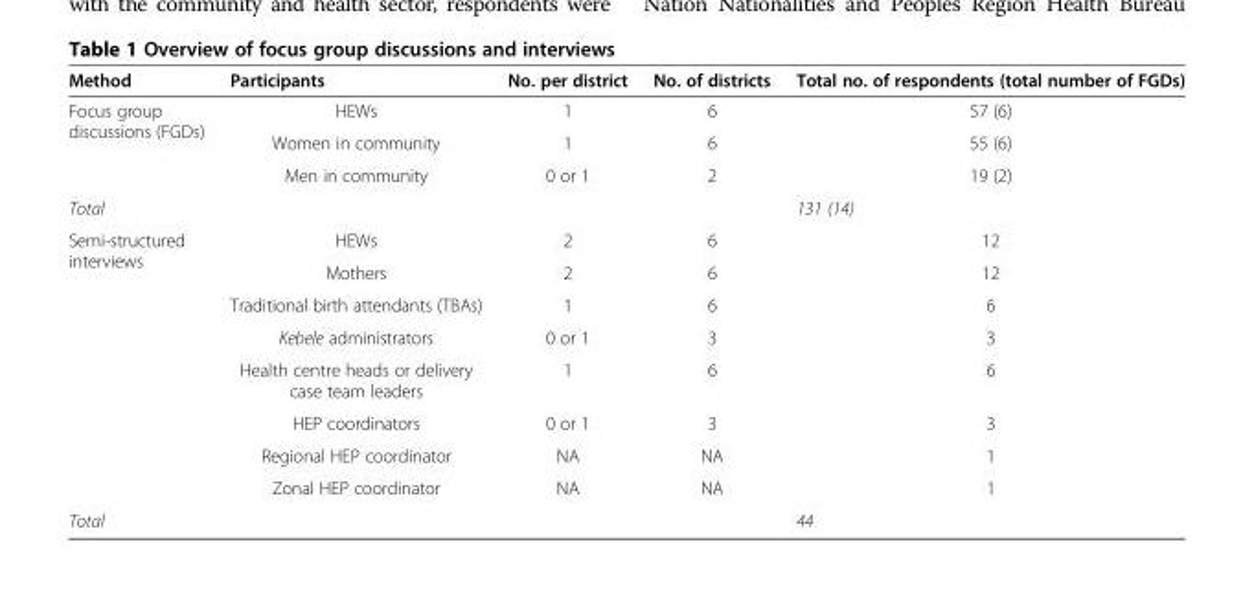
<table><thead><tr><td>Method</td><td>Participants</td><td>No. per district</td><td>No. of districts</td><td>Total no. of respondents (total number of FGDs)</td></tr></thead><tbody><tr><td rowspan="3">Focus group discussions (FGDs)</td><td>HEWs</td><td>1</td><td>6</td><td>57 (6)</td></tr><tr><td>Women in community</td><td>1</td><td>6</td><td>55 (6)</td></tr><tr><td>Men in community</td><td>0 or 1</td><td>2</td><td>19 (2)</td></tr><tr><td colspan="3">Total</td><td></td><td>131 (14)</td></tr><tr><td rowspan="8">Semi-structured interviews</td><td>HEWs</td><td>2</td><td>6</td><td>12</td></tr><tr><td>Mothers</td><td>2</td><td>6</td><td>12</td></tr><tr><td>Traditional birth attendants (TBAs)</td><td>1</td><td>6</td><td>6</td></tr><tr><td>Kebele administrators</td><td>0 or 1</td><td>3</td><td>3</td></tr><tr><td>Health centre heads or delivery case team leaders</td><td>1</td><td>6</td><td>6</td></tr><tr><td>HEP coordinators</td><td>0 or 1</td><td>3</td><td>3</td></tr><tr><td>Regional HEP coordinator</td><td>NA</td><td>NA</td><td>1</td></tr><tr><td>Zonal HEP coordinator</td><td>NA</td><td>NA</td><td>1</td></tr><tr><td colspan="3">Total</td><td></td><td>44</td></tr></tbody></table>